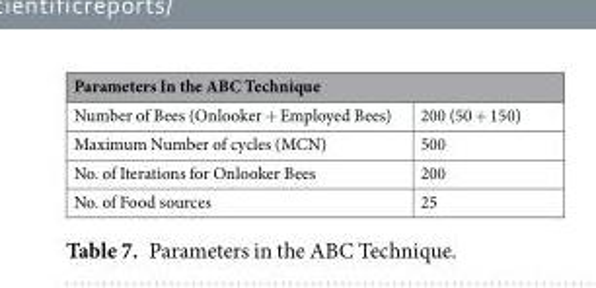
<table><thead><tr><td colspan="2">Parameters In the ABC Technique</td></tr><tr><td>Number of Bees (Onlooker + Employed Bees)</td><td>200 (50 + 150)</td></tr></thead><tbody><tr><td>Maximum Number of cycles (MCN)</td><td>500</td></tr><tr><td>No. of Iterations for Onlooker Bees</td><td>200</td></tr><tr><td>No. of Food sources</td><td>25</td></tr></tbody></table>